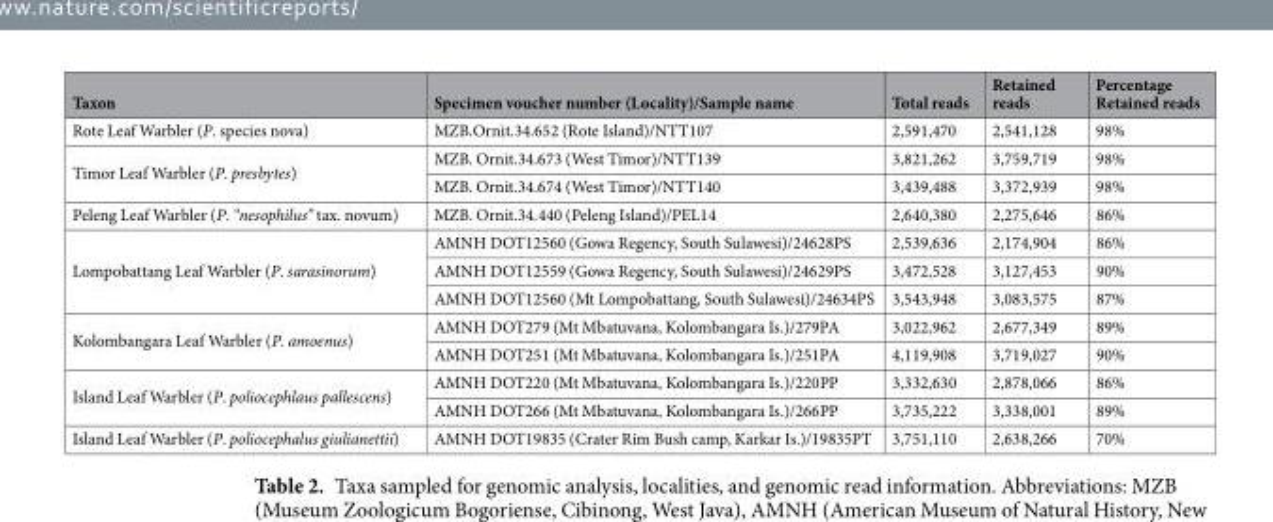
<table><thead><tr><td>Taxon</td><td>Specimen voucher number (Locality)/Sample name</td><td>Total reads</td><td>Retained reads</td><td>Percentage Retained reads</td></tr></thead><tbody><tr><td>Rote Leaf Warbler (P. species nova)</td><td>MZB.Ornit.34.652 (Rote Island)/NTT107</td><td>2,591,470</td><td>2,541,128</td><td>98%</td></tr><tr><td rowspan="2">Timor Leaf Warbler (P. presbytes)</td><td>MZB. Ornit.34.673 (West Timor)/NTT139</td><td>3,821,262</td><td>3,759,719</td><td>98%</td></tr><tr><td>MZB. Ornit.34.674 (West Timor)/NTT140</td><td>3,439,488</td><td>3,372,939</td><td>98%</td></tr><tr><td>Peleng Leaf Warbler (P. “nesophilus” tax. novum)</td><td>MZB. Ornit.34.440 (Peleng Island)/PEL14</td><td>2,640,380</td><td>2,275,646</td><td>86%</td></tr><tr><td rowspan="3">Lompobattang Leaf Warbler (P. sarasinorum)</td><td>AMNH DOT12560 (Gowa Regency, South Sulawesi)/24628PS</td><td>2,539,636</td><td>2,174,904</td><td>86%</td></tr><tr><td>AMNH DOT12559 (Gowa Regency, South Sulawesi)/24629PS</td><td>3,472,528</td><td>3,127,453</td><td>90%</td></tr><tr><td>AMNH DOT12560 (Mt Lompobattang, South Sulawesi)/24634PS</td><td>3,543,948</td><td>3,083,575</td><td>87%</td></tr><tr><td rowspan="2">Kolombangara Leaf Warbler (P. amoenus)</td><td>AMNH DOT279 (Mt Mbatuvana, Kolombangara Is.)/279PA</td><td>3,022,962</td><td>2,677,349</td><td>89%</td></tr><tr><td>AMNH DOT251 (Mt Mbatuvana, Kolombangara Is.)/251PA</td><td>4,119,908</td><td>3,719,027</td><td>90%</td></tr><tr><td rowspan="2">Island Leaf Warbler (P. poliocephlaus pallescens)</td><td>AMNH DOT220 (Mt Mbatuvana, Kolombangara Is.)/220PP</td><td>3,332,630</td><td>2,878,066</td><td>86%</td></tr><tr><td>AMNH DOT266 (Mt Mbatuvana, Kolombangara Is.)/266PP</td><td>3,735,222</td><td>3,338,001</td><td>89%</td></tr><tr><td>Island Leaf Warbler (P. poliocephalus giulianettii)</td><td>AMNH DOT19835 (Crater Rim Bush camp, Karkar Is.)/19835PT</td><td>3,751,110</td><td>2,638,266</td><td>70%</td></tr></tbody></table>